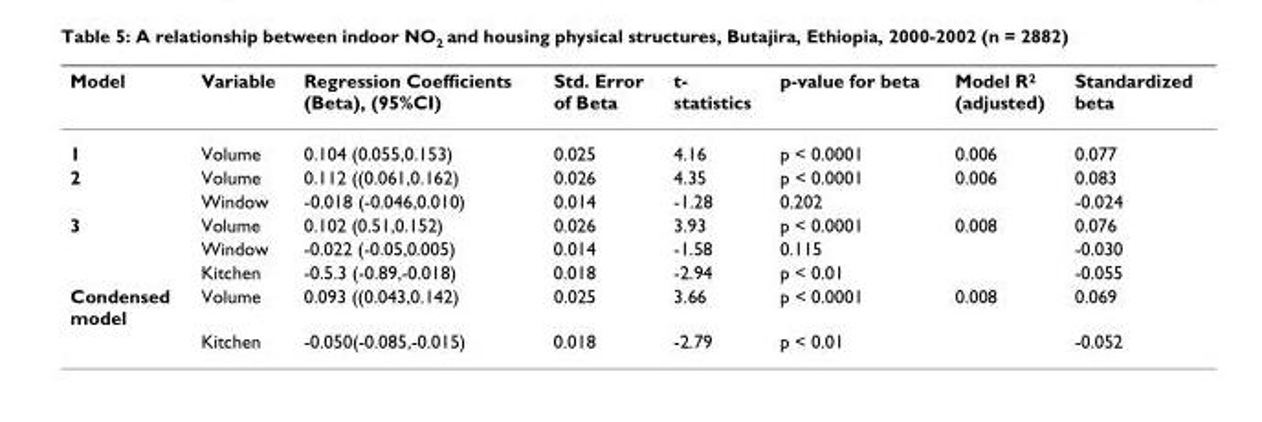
<table><thead><tr><td>Model</td><td>Variable</td><td>Regression Coefficients (Beta), (95%CI)</td><td>Std. Error of Beta</td><td>t- statistics</td><td>p-value for beta</td><td>Model R<sup>2</sup> (adjusted)</td><td>Standardized beta</td></tr></thead><tbody><tr><td>1</td><td>Volume</td><td>0.104 (0.055,0.153)</td><td>0.025</td><td>4.16</td><td>p &lt; 0.0001</td><td>0.006</td><td>0.077</td></tr><tr><td rowspan="2">2</td><td>Volume</td><td>0.112 ((0.061,0.162)</td><td>0.026</td><td>4.35</td><td>p &lt; 0.0001</td><td>0.006</td><td>0.083</td></tr><tr><td>Window</td><td>-0.018 (-0.046,0.010)</td><td>0.014</td><td>-1.28</td><td>0.202</td><td></td><td>-0.024</td></tr><tr><td rowspan="3">3</td><td>Volume</td><td>0.102 (0.51,0.152)</td><td>0.026</td><td>3.93</td><td>p &lt; 0.0001</td><td>0.008</td><td>0.076</td></tr><tr><td>Window</td><td>-0.022 (-0.05,0.005)</td><td>0.014</td><td>-1.58</td><td>0.115</td><td></td><td>-0.030</td></tr><tr><td>Kitchen</td><td>-0.5.3 (-0.89,-0.018)</td><td>0.018</td><td>-2.94</td><td>p &lt; 0.01</td><td></td><td>-0.055</td></tr><tr><td rowspan="2">Condensed model</td><td>Volume</td><td>0.093 ((0.043,0.142)</td><td>0.025</td><td>3.66</td><td>p &lt; 0.0001</td><td>0.008</td><td>0.069</td></tr><tr><td>Kitchen</td><td>-0.050(-0.085,-0.015)</td><td>0.018</td><td>-2.79</td><td>p &lt; 0.01</td><td></td><td>-0.052</td></tr></tbody></table>